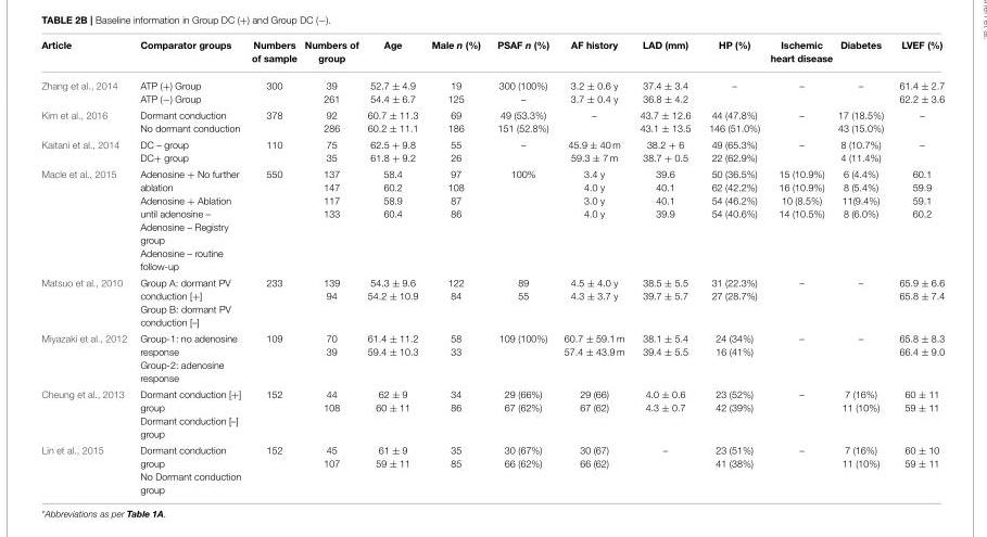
<table><thead><tr><td>Article</td><td>Comparator groups</td><td>Numbers of sample</td><td>Numbers of group</td><td>Age</td><td>Male n (%)</td><td>PSAF n (%)</td><td>AF history</td><td>LAD (mm)</td><td>HP (%)</td><td>Ischemic heart disease</td><td>Diabetes</td><td>LVEF (%)</td></tr></thead><tbody><tr><td>Zhang et al., 2014</td><td>ATP (+) Group ATP (−) Group</td><td>300</td><td>39 261</td><td>52.7 ± 4.9 54.4 ± 6.7</td><td>19 125</td><td>300 (100%) –</td><td>3.2 ± 0.6 y 3.7 ± 0.4 y</td><td>37.4 ± 3.4 36.8 ± 4.2</td><td>–</td><td>–</td><td>–</td><td>61.4 ± 2.7 62.2 ± 3.6</td></tr><tr><td>Kim et al., 2016</td><td>Dormant conduction No dormant conduction</td><td>378</td><td>92 286</td><td>60.7 ± 11.3 60.2 ± 11.1</td><td>69 186</td><td>49 (53.3%) 151 (52.8%)</td><td>–</td><td>43.7 ± 12.6 43.1 ± 13.5</td><td>44 (47.8%) 146 (51.0%)</td><td>–</td><td>17 (18.5%) 43 (15.0%)</td><td>–</td></tr><tr><td>Kaitani et al., 2014</td><td>DC – group DC+ group</td><td>110</td><td>75 35</td><td>62.5 + 9.8 61.8 + 9.2</td><td>55 26</td><td>–</td><td>45.9 ± 40 m 59.3 ± 7 m</td><td>38.2 + 6 38.7 + 0.5</td><td>49 (65.3%) 22 (62.9%)</td><td>–</td><td>8 (10.7%) 4 (11.4%)</td><td>–</td></tr><tr><td>Macle et al., 2015</td><td>Adenosine + No further ablation Adenosine + Ablation until adenosine – Adenosine – Registry group Adenosine – routine follow-up</td><td>550</td><td>137 147 117 133</td><td>58.4 60.2 58.9 60.4</td><td>97 108 87 86</td><td>100%</td><td>3.4 y 4.0 y 3.0 y 4.0 y</td><td>39.6 40.1 40.1 39.9</td><td>50 (36.5%) 62 (42.2%) 54 (46.2%) 54 (40.6%)</td><td>15 (10.9%) 16 (10.9%) 10 (8.5%) 14 (10.5%)</td><td>6 (4.4%) 8 (5.4%) 11(9.4%) 8 (6.0%)</td><td>60.1 59.9 59.1 60.2</td></tr><tr><td>Matsuo et al., 2010</td><td>Group A: dormant PV conduction [+] Group B: dormant PV conduction [–]</td><td>233</td><td>139 94</td><td>54.3 ± 9.6 54.2 ± 10.9</td><td>122 84</td><td>89 55</td><td>4.5 ± 4.0 y 4.3 ± 3.7 y</td><td>38.5 ± 5.5 39.7 ± 5.7</td><td>31 (22.3%) 27 (28.7%)</td><td>–</td><td>–</td><td>65.9 ± 6.6 65.8 ± 7.4</td></tr><tr><td>Miyazaki et al., 2012</td><td>Group-1: no adenosine response Group-2: adenosine response</td><td>109</td><td>70 39</td><td>61.4 ± 11.2 59.4 ± 10.3</td><td>58 33</td><td>109 (100%)</td><td>60.7 ± 59.1 m 57.4 ± 43.9 m</td><td>38.1 ± 5.4 39.4 ± 5.5</td><td>24 (34%) 16 (41%)</td><td>–</td><td>–</td><td>65.8 ± 8.3 66.4 ± 9.0</td></tr><tr><td>Cheung et al., 2013</td><td>Dormant conduction [+] group Dormant conduction [–] group</td><td>152</td><td>44 108</td><td>62 ± 9 60 ± 11</td><td>34 86</td><td>29 (66%) 67 (62%)</td><td>29 (66) 67 (62)</td><td>4.0 ± 0.6 4.3 ± 0.7</td><td>23 (52%) 42 (39%)</td><td>–</td><td>7 (16%) 11 (10%)</td><td>60 ± 11 59 ± 11</td></tr><tr><td>Lin et al., 2015</td><td>Dormant conduction group No Dormant conduction group</td><td>152</td><td>45 107</td><td>61 ± 9 59 ± 11</td><td>35 85</td><td>30 (67%) 66 (62%)</td><td>30 (67) 66 (62)</td><td>–</td><td>23 (51%) 41 (38%)</td><td>–</td><td>7 (16%) 11 (10%)</td><td>60 ± 10 59 ± 11</td></tr></tbody></table>